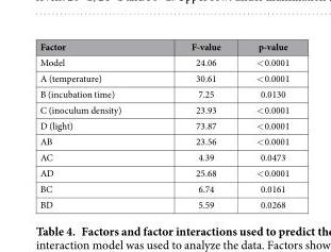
<table><thead><tr><td>Factor</td><td>F-value</td><td>p-value</td></tr></thead><tbody><tr><td>Model</td><td>24.06</td><td>&lt; 0.0001</td></tr><tr><td>A (temperature)</td><td>30.61</td><td>&lt; 0.0001</td></tr><tr><td>B (incubation time)</td><td>7.25</td><td>0.0130</td></tr><tr><td>C (inoculum density)</td><td>23.93</td><td>&lt; 0.0001</td></tr><tr><td>D (light)</td><td>73.87</td><td>&lt; 0.0001</td></tr><tr><td>AB</td><td>23.56</td><td>&lt; 0.0001</td></tr><tr><td>AC</td><td>4.39</td><td>0.0473</td></tr><tr><td>AD</td><td>25.68</td><td>&lt; 0.0001</td></tr><tr><td>BC</td><td>6.74</td><td>0.0161</td></tr><tr><td>BD</td><td>5.59</td><td>0.0268</td></tr></tbody></table>